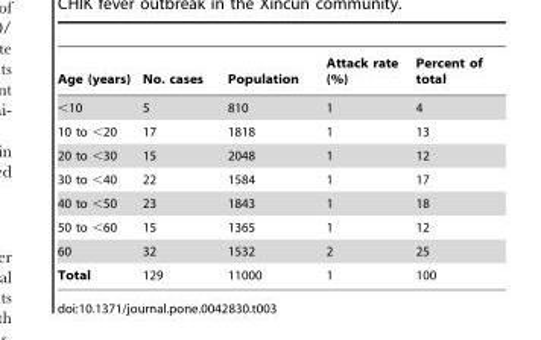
<table><thead><tr><td>Age (years)</td><td>No. cases</td><td>Population</td><td>Attack rate (%)</td><td>Percent of total</td></tr></thead><tbody><tr><td>&lt;10</td><td>5</td><td>810</td><td>1</td><td>4</td></tr><tr><td>10 to &lt;20</td><td>17</td><td>1818</td><td>1</td><td>13</td></tr><tr><td>20 to &lt;30</td><td>15</td><td>2048</td><td>1</td><td>12</td></tr><tr><td>30 to &lt;40</td><td>22</td><td>1584</td><td>1</td><td>17</td></tr><tr><td>40 to &lt;50</td><td>23</td><td>1843</td><td>1</td><td>18</td></tr><tr><td>50 to &lt;60</td><td>15</td><td>1365</td><td>1</td><td>12</td></tr><tr><td>60</td><td>32</td><td>1532</td><td>2</td><td>25</td></tr><tr><td>Total</td><td>129</td><td>11000</td><td>1</td><td>100</td></tr></tbody></table>